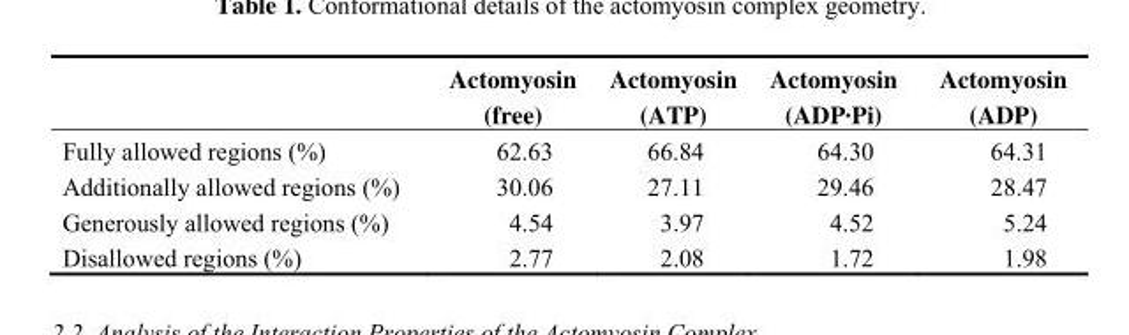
<table><thead><tr><td></td><td>Actomyosin (free)</td><td>Actomyosin (ATP)</td><td>Actomyosin (ADP·Pi)</td><td>Actomyosin (ADP)</td></tr></thead><tbody><tr><td>Fully allowed regions (%)</td><td>62.63</td><td>66.84</td><td>64.30</td><td>64.31</td></tr><tr><td>Additionally allowed regions (%)</td><td>30.06</td><td>27.11</td><td>29.46</td><td>28.47</td></tr><tr><td>Generously allowed regions (%)</td><td>4.54</td><td>3.97</td><td>4.52</td><td>5.24</td></tr><tr><td>Disallowed regions (%)</td><td>2.77</td><td>2.08</td><td>1.72</td><td>1.98</td></tr></tbody></table>